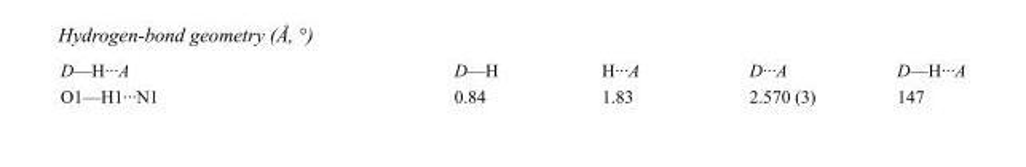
<table><tbody><tr><td>D—H···A</td><td>D—H</td><td>H···A</td><td>D···A</td><td>D—H···A</td></tr><tr><td>O1—H1···N1</td><td>0.84</td><td>1.83</td><td>2.570 (3)</td><td>147</td></tr></tbody></table>